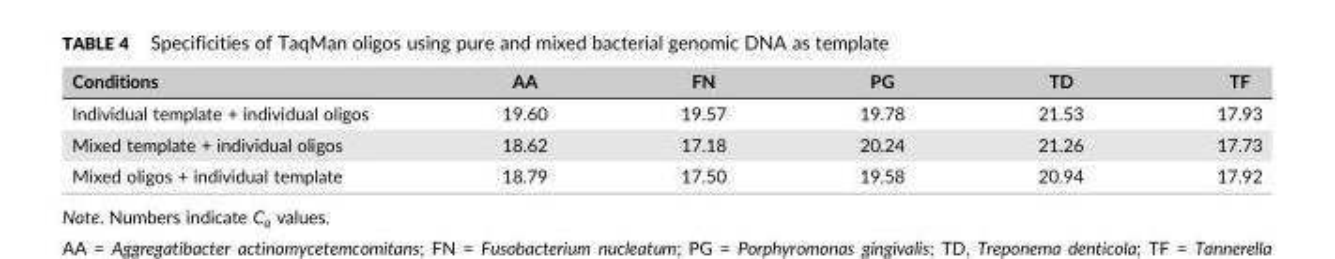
<table><thead><tr><td>Conditions</td><td>AA</td><td>FN</td><td>PG</td><td>TD</td><td>TF</td></tr></thead><tbody><tr><td>Individual template + individual oligos</td><td>19.60</td><td>19.57</td><td>19.78</td><td>21.53</td><td>17.93</td></tr><tr><td>Mixed template + individual oligos</td><td>18.62</td><td>17.18</td><td>20.24</td><td>21.26</td><td>17.73</td></tr><tr><td>Mixed oligos + individual template</td><td>18.79</td><td>17.50</td><td>19.58</td><td>20.94</td><td>17.92</td></tr></tbody></table>